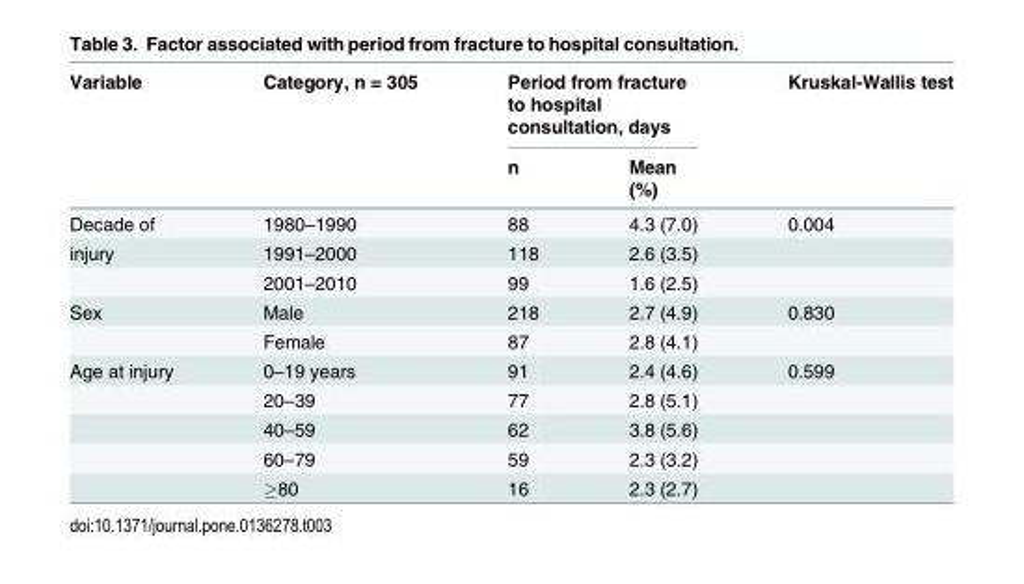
<table><thead><tr><td rowspan="3">Variable</td><td rowspan="3">Category, n = 305</td><td colspan="2">Period from fracture to hospital consultation, days</td><td rowspan="3">Kruskal-Wallis test</td></tr><tr><td rowspan="2">n</td><td rowspan="2">Mean (%)</td></tr><tr></tr></thead><tbody><tr><td>Decade of</td><td>1980–1990</td><td>88</td><td>4.3 (7.0)</td><td>0.004</td></tr><tr><td rowspan="2">injury</td><td>1991–2000</td><td>118</td><td>2.6 (3.5)</td><td></td></tr><tr><td>2001–2010</td><td>99</td><td>1.6 (2.5)</td><td></td></tr><tr><td rowspan="2">Sex</td><td>Male</td><td>218</td><td>2.7 (4.9)</td><td>0.830</td></tr><tr><td>Female</td><td>87</td><td>2.8 (4.1)</td><td></td></tr><tr><td rowspan="5">Age at injury</td><td>0–19 years</td><td>91</td><td>2.4 (4.6)</td><td>0.599</td></tr><tr><td>20–39</td><td>77</td><td>2.8 (5.1)</td><td></td></tr><tr><td>40–59</td><td>62</td><td>3.8 (5.6)</td><td></td></tr><tr><td>60–79</td><td>59</td><td>2.3 (3.2)</td><td></td></tr><tr><td>≥80</td><td>16</td><td>2.3 (2.7)</td><td></td></tr></tbody></table>